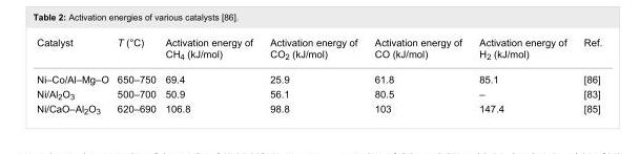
<table><tbody><tr><td>Catalyst</td><td>T (°C)</td><td>Activation energy of CH<sub>4</sub> (kJ/mol)</td><td>Activation energy of CO<sub>2</sub> (kJ/mol)</td><td>Activation energy of CO (kJ/mol)</td><td>Activation energy of H<sub>2</sub> (kJ/mol)</td><td>Ref.</td></tr><tr><td>Ni–Co/Al–Mg–O</td><td>650–750</td><td>69.4</td><td>25.9</td><td>61.8</td><td>85.1</td><td>[86]</td></tr><tr><td>Ni/Al<sub>2</sub>O<sub>3</sub></td><td>500–700</td><td>50.9</td><td>56.1</td><td>80.5</td><td>–</td><td>[83]</td></tr><tr><td>Ni/CaO–Al<sub>2</sub>O<sub>3</sub></td><td>620–690</td><td>106.8</td><td>98.8</td><td>103</td><td>147.4</td><td>[85]</td></tr></tbody></table>